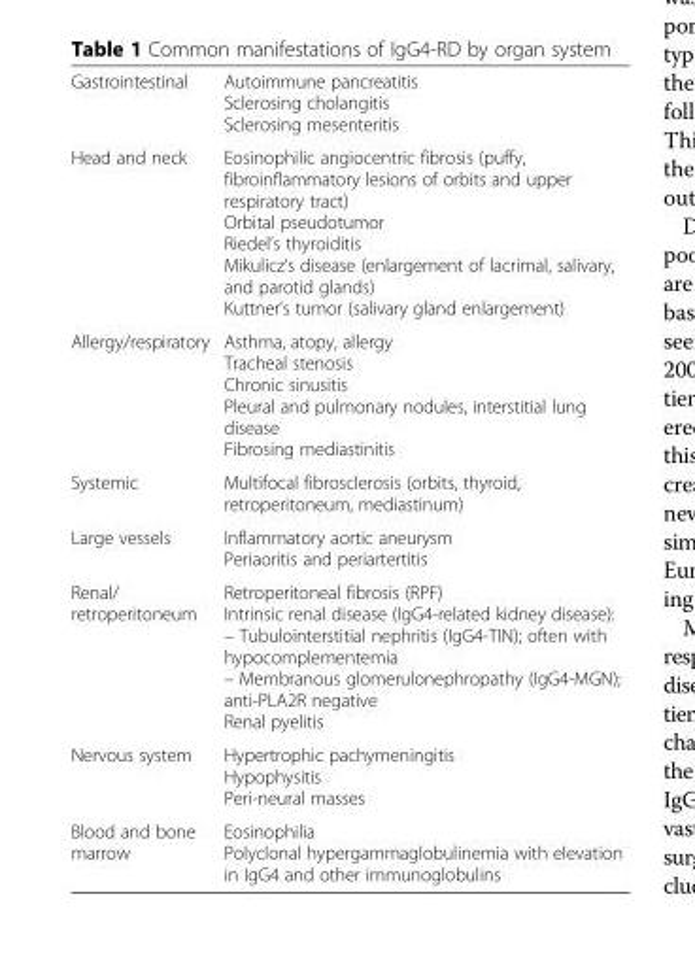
<table><tbody><tr><td>Gastrointestinal</td><td>Autoimmune pancreatitis Sclerosing cholangitis Sclerosing mesenteritis</td></tr><tr><td>Head and neck</td><td>Eosinophilic angiocentric fibrosis (puffy, fibroinflammatory lesions of orbits and upper respiratory tract) Orbital pseudotumor Riedel’s thyroiditis Mikulicz’s disease (enlargement of lacrimal, salivary, and parotid glands) Kuttner’s tumor (salivary gland enlargement)</td></tr><tr><td>Allergy/respiratory</td><td>Asthma, atopy, allergy Tracheal stenosis Chronic sinusitis Pleural and pulmonary nodules, interstitial lung disease Fibrosing mediastinitis</td></tr><tr><td>Systemic</td><td>Multifocal fibrosclerosis (orbits, thyroid, retroperitoneum, mediastinum)</td></tr><tr><td>Large vessels</td><td>Inflammatory aortic aneurysm Periaoritis and periartertitis</td></tr><tr><td>Renal/ retroperitoneum</td><td>Retroperitoneal fibrosis (RPF) Intrinsic renal disease (IgG4-related kidney disease): – Tubulointerstitial nephritis (IgG4-TIN); often with hypocomplementemia – Membranous glomerulonephropathy (IgG4-MGN); anti-PLA2R negative Renal pyelitis</td></tr><tr><td>Nervous system</td><td>Hypertrophic pachymeningitis Hypophysitis Peri-neural masses</td></tr><tr><td>Blood and bone marrow</td><td>Eosinophilia Polyclonal hypergammaglobulinemia with elevation in IgG4 and other immunoglobulins</td></tr></tbody></table>